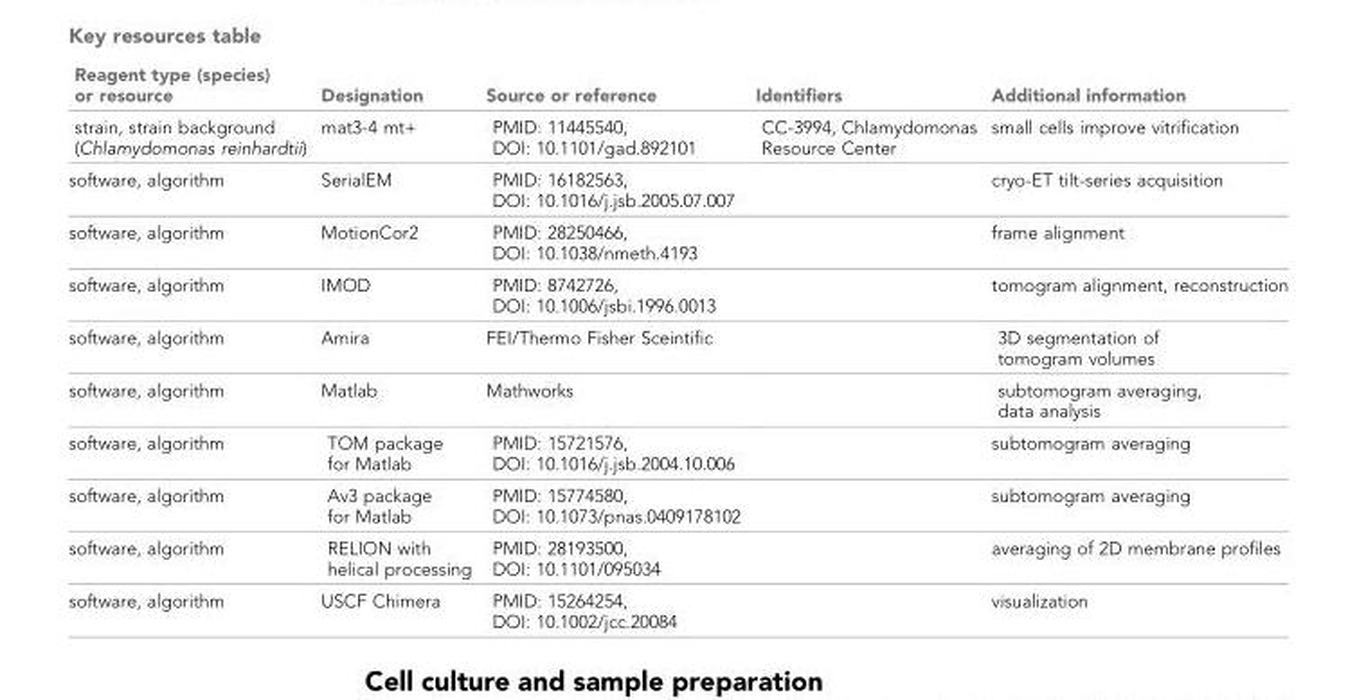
<table><thead><tr><td>Reagent type (species) or resource</td><td>Designation</td><td>Source or reference</td><td>Identifiers</td><td>Additional information</td></tr></thead><tbody><tr><td>strain, strain background (Chlamydomonas reinhardtii)</td><td>mat3-4 mt+</td><td>PMID: 11445540, DOI: 10.1101/gad.892101</td><td>CC-3994, Chlamydomonas Resource Center</td><td>small cells improve vitrification</td></tr><tr><td>software, algorithm</td><td>SerialEM</td><td>PMID: 16182563, DOI: 10.1016/j.jsb.2005.07.007</td><td></td><td>cryo-ET tilt-series acquisition</td></tr><tr><td>software, algorithm</td><td>MotionCor2</td><td>PMID: 28250466, DOI: 10.1038/nmeth.4193</td><td></td><td>frame alignment</td></tr><tr><td>software, algorithm</td><td>IMOD</td><td>PMID: 8742726, DOI: 10.1006/jsbi.1996.0013</td><td></td><td>tomogram alignment, reconstruction</td></tr><tr><td>software, algorithm</td><td>Amira</td><td>FEI/Thermo Fisher Sceintific</td><td></td><td>3D segmentation of tomogram volumes</td></tr><tr><td>software, algorithm</td><td>Matlab</td><td>Mathworks</td><td></td><td>subtomogram averaging, data analysis</td></tr><tr><td>software, algorithm</td><td>TOM package for Matlab</td><td>PMID: 15721576, DOI: 10.1016/j.jsb.2004.10.006</td><td></td><td>subtomogram averaging</td></tr><tr><td>software, algorithm</td><td>Av3 package for Matlab</td><td>PMID: 15774580, DOI: 10.1073/pnas.0409178102</td><td></td><td>subtomogram averaging</td></tr><tr><td>software, algorithm</td><td>RELION with helical processing</td><td>PMID: 28193500, DOI: 10.1101/095034</td><td></td><td>averaging of 2D membrane profiles</td></tr><tr><td>software, algorithm</td><td>USCF Chimera</td><td>PMID: 15264254, DOI: 10.1002/jcc.20084</td><td></td><td>visualization</td></tr></tbody></table>